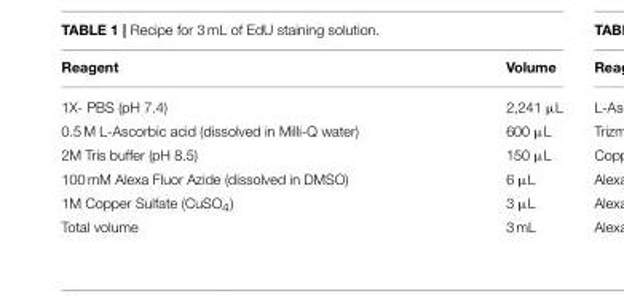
<table><thead><tr><td>Reagent</td><td>Volume</td></tr></thead><tbody><tr><td>1X- PBS (pH 7.4)</td><td>2,241 µL</td></tr><tr><td>0.5 M L-Ascorbic acid (dissolved in Milli-Q water)</td><td>600 µL</td></tr><tr><td>2M Tris buffer (pH 8.5)</td><td>150 µL</td></tr><tr><td>100 mM Alexa Fluor Azide (dissolved in DMSO)</td><td>6 µL</td></tr><tr><td>1M Copper Sulfate (CuSO<sub>4</sub>)</td><td>3 µL</td></tr><tr><td>Total volume</td><td>3 mL</td></tr></tbody></table>